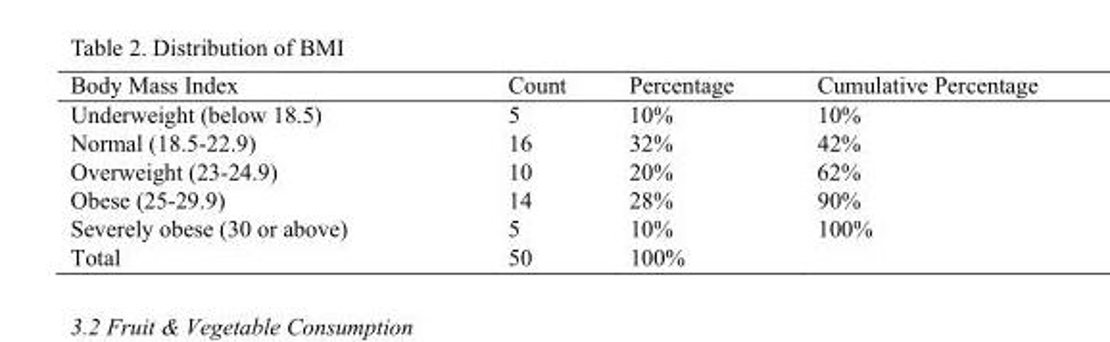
<table><thead><tr><td>Body Mass Index</td><td>Count</td><td>Percentage</td><td>Cumulative Percentage</td></tr></thead><tbody><tr><td>Underweight (below 18.5)</td><td>5</td><td>10%</td><td>10%</td></tr><tr><td>Normal (18.5-22.9)</td><td>16</td><td>32%</td><td>42%</td></tr><tr><td>Overweight (23-24.9)</td><td>10</td><td>20%</td><td>62%</td></tr><tr><td>Obese (25-29.9)</td><td>14</td><td>28%</td><td>90%</td></tr><tr><td>Severely obese (30 or above)</td><td>5</td><td>10%</td><td>100%</td></tr><tr><td>Total</td><td>50</td><td>100%</td><td></td></tr></tbody></table>